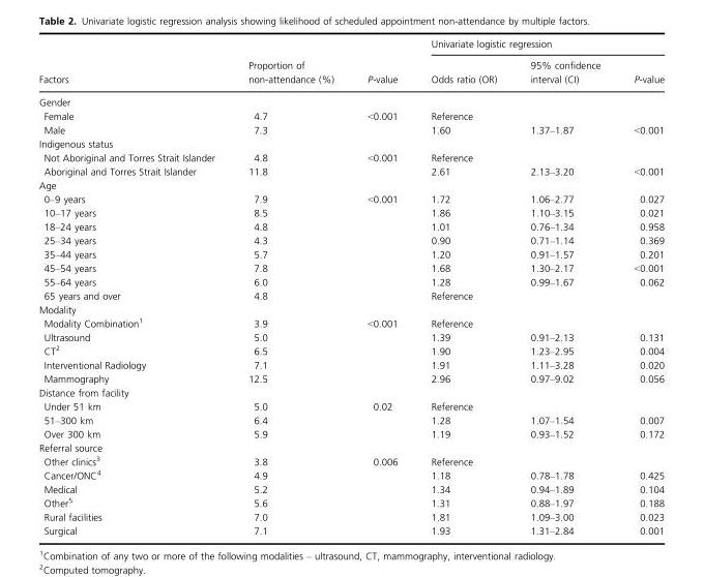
<table><thead><tr><td rowspan="2">Factors</td><td rowspan="2">Proportion of non-attendance (%)</td><td rowspan="2">P-value</td><td colspan="3">Univariate logistic regression</td></tr><tr><td>Odds ratio (OR)</td><td>95% confidence interval (CI)</td><td>P-value</td></tr></thead><tbody><tr><td colspan="6">Gender</td></tr><tr><td>Female</td><td>4.7</td><td rowspan="2">&lt;0.001</td><td colspan="3">Reference</td></tr><tr><td>Male</td><td>7.3</td><td>1.60</td><td>1.37–1.87</td><td>&lt;0.001</td></tr><tr><td colspan="6">Indigenous status</td></tr><tr><td>Not Aboriginal and Torres Strait Islander</td><td>4.8</td><td rowspan="2">&lt;0.001</td><td colspan="3">Reference</td></tr><tr><td>Aboriginal and Torres Strait Islander</td><td>11.8</td><td>2.61</td><td>2.13–3.20</td><td>&lt;0.001</td></tr><tr><td colspan="6">Age</td></tr><tr><td>0–9 years</td><td>7.9</td><td rowspan="8">&lt;0.001</td><td>1.72</td><td>1.06–2.77</td><td>0.027</td></tr><tr><td>10–17 years</td><td>8.5</td><td>1.86</td><td>1.10–3.15</td><td>0.021</td></tr><tr><td>18–24 years</td><td>4.8</td><td>1.01</td><td>0.76–1.34</td><td>0.958</td></tr><tr><td>25–34 years</td><td>4.3</td><td>0.90</td><td>0.71–1.14</td><td>0.369</td></tr><tr><td>35–44 years</td><td>5.7</td><td>1.20</td><td>0.91–1.57</td><td>0.201</td></tr><tr><td>45–54 years</td><td>7.8</td><td>1.68</td><td>1.30–2.17</td><td>&lt;0.001</td></tr><tr><td>55–64 years</td><td>6.0</td><td>1.28</td><td>0.99–1.67</td><td>0.062</td></tr><tr><td>65 years and over</td><td>4.8</td><td colspan="3">Reference</td></tr><tr><td colspan="6">Modality</td></tr><tr><td>Modality Combination1</td><td>3.9</td><td rowspan="5">&lt;0.001</td><td colspan="3">Reference</td></tr><tr><td>Ultrasound</td><td>5.0</td><td>1.39</td><td>0.91–2.13</td><td>0.131</td></tr><tr><td>CT2</td><td>6.5</td><td>1.90</td><td>1.23–2.95</td><td>0.004</td></tr><tr><td>Interventional Radiology</td><td>7.1</td><td>1.91</td><td>1.11–3.28</td><td>0.020</td></tr><tr><td>Mammography</td><td>12.5</td><td>2.96</td><td>0.97–9.02</td><td>0.056</td></tr><tr><td colspan="6">Distance from facility</td></tr><tr><td>Under 51 km</td><td>5.0</td><td rowspan="3">0.02</td><td colspan="3">Reference</td></tr><tr><td>51–300 km</td><td>6.4</td><td>1.28</td><td>1.07–1.54</td><td>0.007</td></tr><tr><td>Over 300 km</td><td>5.9</td><td>1.19</td><td>0.93–1.52</td><td>0.172</td></tr><tr><td colspan="6">Referral source</td></tr><tr><td>Other clinics3</td><td>3.8</td><td rowspan="6">0.006</td><td colspan="3">Reference</td></tr><tr><td>Cancer/ONC4</td><td>4.9</td><td>1.18</td><td>0.78–1.78</td><td>0.425</td></tr><tr><td>Medical</td><td>5.2</td><td>1.34</td><td>0.94–1.89</td><td>0.104</td></tr><tr><td>Other5</td><td>5.6</td><td>1.31</td><td>0.88–1.97</td><td>0.188</td></tr><tr><td>Rural facilities</td><td>7.0</td><td>1.81</td><td>1.09–3.00</td><td>0.023</td></tr><tr><td>Surgical</td><td>7.1</td><td>1.93</td><td>1.31–2.84</td><td>0.001</td></tr></tbody></table>